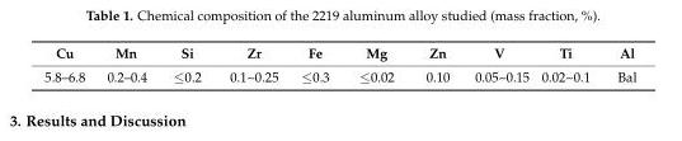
<table><thead><tr><td>Cu</td><td>Mn</td><td>Si</td><td>Zr</td><td>Fe</td><td>Mg</td><td>Zn</td><td>V</td><td>Ti</td><td>Al</td></tr></thead><tbody><tr><td>5.8–6.8</td><td>0.2–0.4</td><td>≤0.2</td><td>0.1~0.25</td><td>≤0.3</td><td>≤0.02</td><td>0.10</td><td>0.05~0.15</td><td>0.02~0.1</td><td>Bal</td></tr></tbody></table>